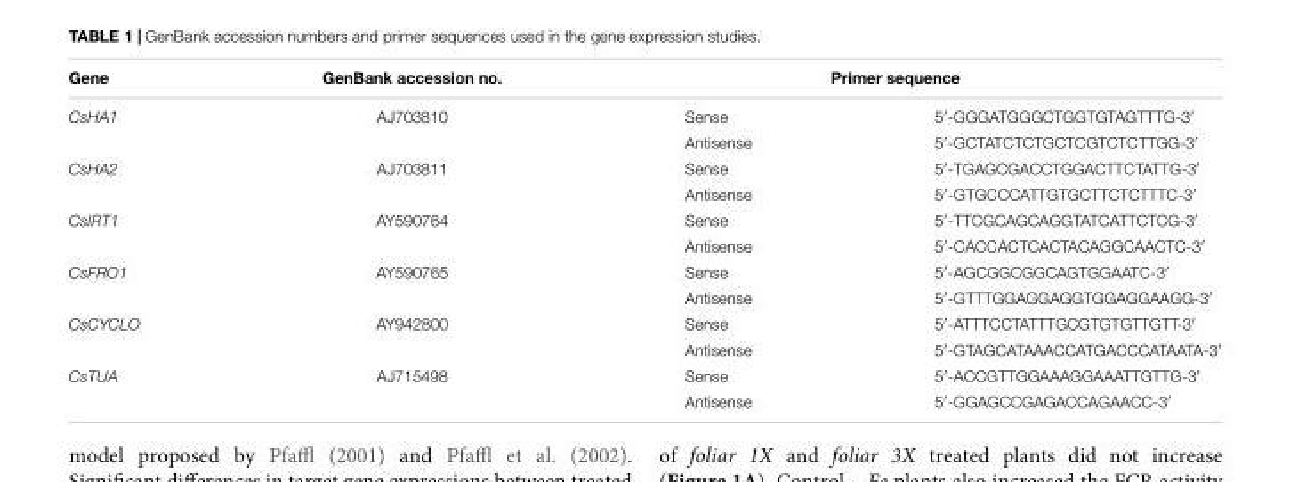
<table><thead><tr><td rowspan="2">Gene CsHA1</td><td rowspan="2">GenBank accession no. AJ703810</td><td colspan="2">Primer sequence</td></tr><tr><td>Sense</td><td>5′-GGGATGGGCTGGTGTAGTTTG-3′</td></tr></thead><tbody><tr><td></td><td></td><td>Antisense</td><td>5′-GCTATCTCTGCTCGTCTCTTGG-3′</td></tr><tr><td rowspan="2">CsHA2</td><td>AJ703811</td><td>Sense</td><td>5′-TGAGCGACCTGGACTTCTATTG-3′</td></tr><tr><td></td><td>Antisense</td><td>5′-GTGCCCATTGTGCTTCTCTTTC-3′</td></tr><tr><td rowspan="2">CsIRT1</td><td>AY590764</td><td>Sense</td><td>5′-TTCGCAGCAGGTATCATTCTCG-3′</td></tr><tr><td></td><td>Antisense</td><td>5′-CACCACTCACTACAGGCAACTC-3′</td></tr><tr><td rowspan="2">CsFRO1</td><td>AY590765</td><td>Sense</td><td>5′-AGCGGCGGCAGTGGAATC-3′</td></tr><tr><td></td><td>Antisense</td><td>5′-GTTTGGAGGAGGTGGAGGAAGG-3′</td></tr><tr><td rowspan="2">CsCYCLO</td><td>AY942800</td><td>Sense</td><td>5′-ATTTCCTATTTGCGTGTGTTGTT-3′</td></tr><tr><td></td><td>Antisense</td><td>5′-GTAGCATAAACCATGACCCATAATA-3′</td></tr><tr><td rowspan="2">CsTUA</td><td>AJ715498</td><td>Sense</td><td>5′-ACCGTTGGAAAGGAAATTGTTG-3′</td></tr><tr><td></td><td>Antisense</td><td>5′-GGAGCCGAGACCAGAACC-3′</td></tr></tbody></table>